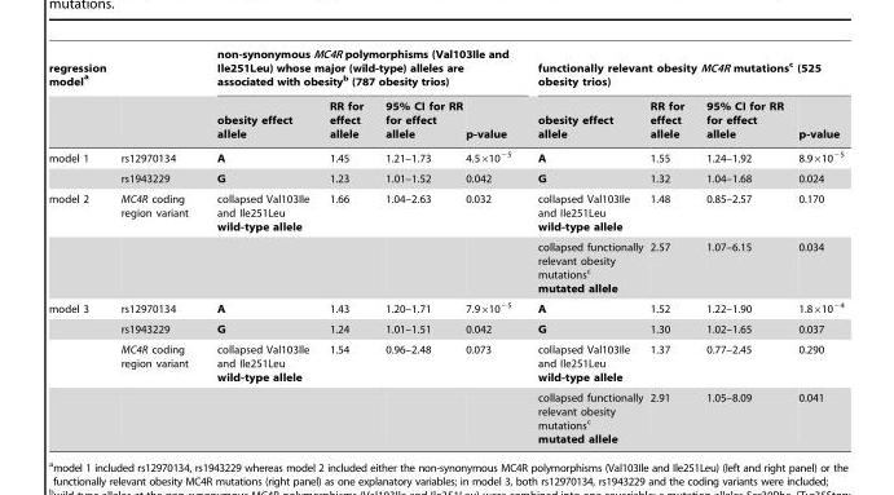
<table><thead><tr><td rowspan="2">regression model <sup>a</sup></td><td rowspan="2"></td><td colspan="4">non-synonymous MC4R polymorphisms (Val103Ile and Ile251Leu) whose major (wild-type) alleles are associated with obesity<sup>b</sup> (787 obesity trios)</td><td colspan="4">functionally relevant obesity MC4R mutations<sup>c</sup> (525 obesity trios)</td></tr><tr><td>obesity effect allele</td><td>RR for effect allele</td><td>95% CI for RR for effect allele</td><td>p-value</td><td>obesity effect allele</td><td>RR for effect allele</td><td>95% CI for RR for effect allele</td><td>p-value</td></tr></thead><tbody><tr><td rowspan="2">model 1</td><td>rs12970134</td><td>A</td><td>1.45</td><td>1.21–1.73</td><td>4.5×10<sup>−5</sup></td><td>A</td><td>1.55</td><td>1.24–1.92</td><td>8.9×10<sup>−5</sup></td></tr><tr><td>rs1943229</td><td>G</td><td>1.23</td><td>1.01–1.52</td><td>0.042</td><td>G</td><td>1.32</td><td>1.04–1.68</td><td>0.024</td></tr><tr><td rowspan="2">model 2</td><td>MC4R coding region variant</td><td>collapsed Val103Ile and Ile251Leu wild-type allele</td><td>1.66</td><td>1.04–2.63</td><td>0.032</td><td>collapsed Val103Ile and Ile251Leu wild-type allele</td><td>1.48</td><td>0.85–2.57</td><td>0.170</td></tr><tr><td></td><td></td><td></td><td></td><td></td><td>collapsed functionally relevant obesity mutations<sup>c</sup> mutated allele</td><td>2.57</td><td>1.07–6.15</td><td>0.034</td></tr><tr><td rowspan="4">model 3</td><td>rs12970134</td><td>A</td><td>1.43</td><td>1.20–1.71</td><td>7.9×10<sup>−5</sup></td><td>A</td><td>1.52</td><td>1.22–1.90</td><td>1.8×10<sup>−4</sup></td></tr><tr><td>rs1943229</td><td>G</td><td>1.24</td><td>1.01–1.51</td><td>0.042</td><td>G</td><td>1.30</td><td>1.02–1.65</td><td>0.037</td></tr><tr><td>MC4R coding region variant</td><td>collapsed Val103Ile and Ile251Leu wild-type allele</td><td>1.54</td><td>0.96–2.48</td><td>0.073</td><td>collapsed Val103Ile and Ile251Leu wild-type allele</td><td>1.37</td><td>0.77–2.45</td><td>0.290</td></tr><tr><td></td><td></td><td></td><td></td><td></td><td>collapsed functionally relevant obesity mutations<sup>c</sup> mutated allele</td><td>2.91</td><td>1.05–8.09</td><td>0.041</td></tr></tbody></table>